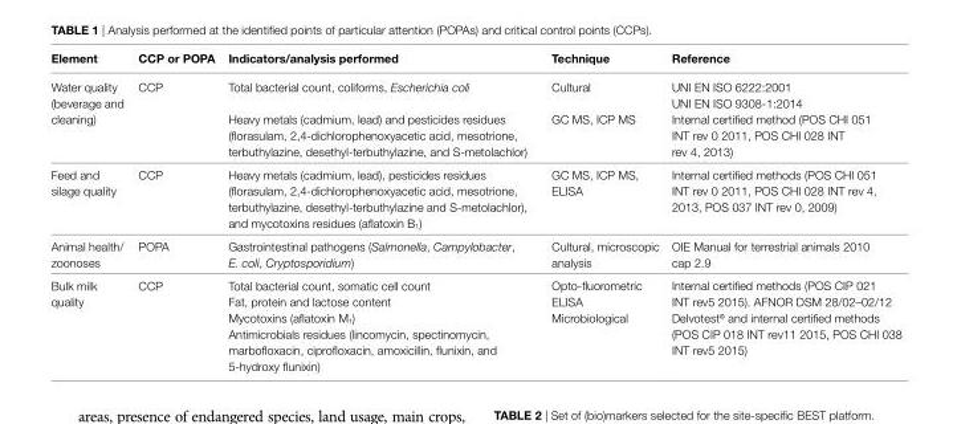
<table><thead><tr><td>element</td><td>ccP or POPa</td><td>indicators/analysis performed</td><td>Technique</td><td>reference</td></tr></thead><tbody><tr><td rowspan="2">Water quality (beverage and cleaning)</td><td rowspan="2">CCP</td><td>Total bacterial count, coliforms, Escherichia coli</td><td>Cultural</td><td>UNI EN ISO 6222:2001 UNI EN ISO 9308-1:2014</td></tr><tr><td>Heavy metals (cadmium, lead) and pesticides residues (florasulam, 2,4-dichlorophenoxyacetic acid, mesotrione, terbuthylazine, desethyl-terbuthylazine, and S-metolachlor)</td><td>GC MS, ICP MS</td><td>Internal certified method (POS CHI 051 INT rev 0 2011, POS CHI 028 INT rev 4, 2013)</td></tr><tr><td>Feed and silage quality</td><td>CCP</td><td>Heavy metals (cadmium, lead), pesticides residues (florasulam, 2,4-dichlorophenoxyacetic acid, mesotrione, terbuthylazine, desethyl-terbuthylazine and S-metolachlor), and mycotoxins residues (aflatoxin B<sub>1</sub>)</td><td>GC MS, ICP MS, ELISA</td><td>Internal certified methods (POS CHI 051 INT rev 0 2011, POS CHI 028 INT rev 4, 2013, POS 037 INT rev 0, 2009)</td></tr><tr><td>Animal health/ zoonoses</td><td>POPA</td><td>Gastrointestinal pathogens (Salmonella, Campylobacter, E. coli, Cryptosporidium)</td><td>Cultural, microscopic analysis</td><td>OIE Manual for terrestrial animals 2010 cap 2.9</td></tr><tr><td>Bulk milk quality</td><td>CCP</td><td>Total bacterial count, somatic cell count Fat, protein and lactose content Mycotoxins (aflatoxin M<sub>1</sub>) Antimicrobials residues (lincomycin, spectinomycin, marbofloxacin, ciprofloxacin, amoxicillin, flunixin, and 5-hydroxy flunixin)</td><td>Opto-fluorometric ELISA Microbiological</td><td>Internal certified methods (POS CIP 021 INT rev5 2015). AFNOR DSM 28/02–02/12 Delvotest<sup>®</sup> and internal certified methods (POS CIP 018 INT rev11 2015, POS CHI 038 INT rev5 2015)</td></tr></tbody></table>